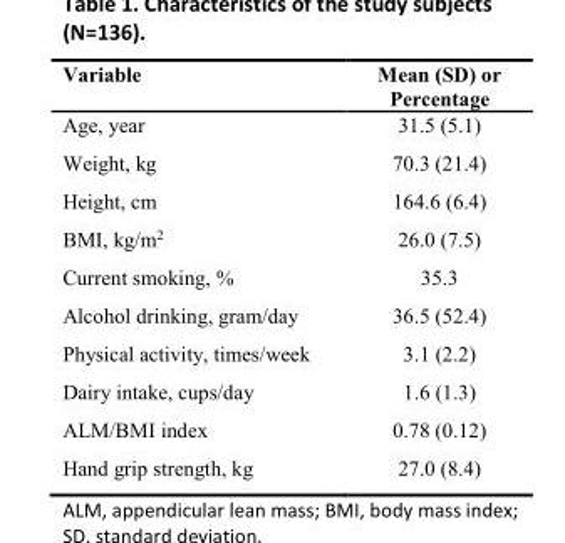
<table><tbody><tr><td>Variable</td><td>Mean (SD) or Percentage</td></tr><tr><td>Age, year</td><td>31.5 (5.1)</td></tr><tr><td>Weight, kg</td><td>70.3 (21.4)</td></tr><tr><td>Height, cm</td><td>164.6 (6.4)</td></tr><tr><td>BMI, kg/m<sup>2</sup></td><td>26.0 (7.5)</td></tr><tr><td>Current smoking, %</td><td>35.3</td></tr><tr><td>Alcohol drinking, gram/day</td><td>36.5 (52.4)</td></tr><tr><td>Physical activity, times/week</td><td>3.1 (2.2)</td></tr><tr><td>Dairy intake, cups/day</td><td>1.6 (1.3)</td></tr><tr><td>ALM/BMI index</td><td>0.78 (0.12)</td></tr><tr><td>Hand grip strength, kg</td><td>27.0 (8.4)</td></tr></tbody></table>